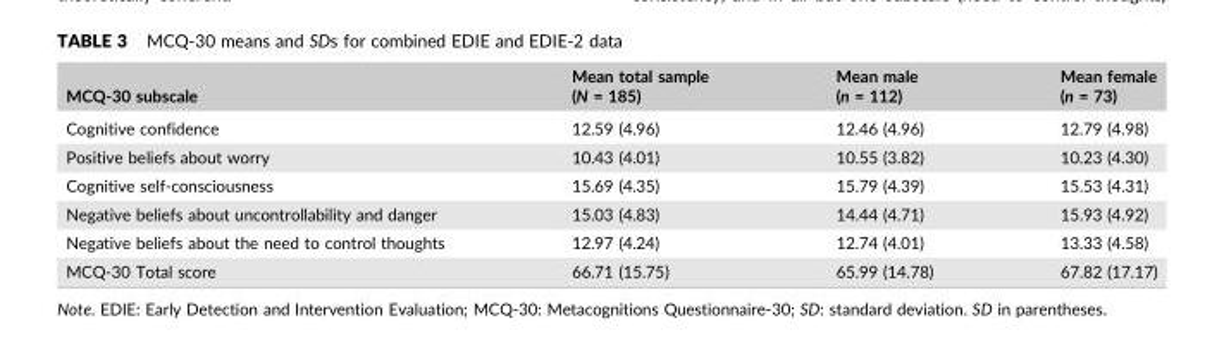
<table><thead><tr><td rowspan="2">MCQ‐30 subscale</td><td rowspan="2">Mean total sample (N = 185)</td><td rowspan="2">Mean male (n = 112)</td><td rowspan="2">Mean female (n = 73)</td></tr><tr></tr></thead><tbody><tr><td>Cognitive confidence</td><td>12.59 (4.96)</td><td>12.46 (4.96)</td><td>12.79 (4.98)</td></tr><tr><td>Positive beliefs about worry</td><td>10.43 (4.01)</td><td>10.55 (3.82)</td><td>10.23 (4.30)</td></tr><tr><td>Cognitive self‐consciousness</td><td>15.69 (4.35)</td><td>15.79 (4.39)</td><td>15.53 (4.31)</td></tr><tr><td>Negative beliefs about uncontrollability and danger</td><td>15.03 (4.83)</td><td>14.44 (4.71)</td><td>15.93 (4.92)</td></tr><tr><td>Negative beliefs about the need to control thoughts</td><td>12.97 (4.24)</td><td>12.74 (4.01)</td><td>13.33 (4.58)</td></tr><tr><td>MCQ‐30 Total score</td><td>66.71 (15.75)</td><td>65.99 (14.78)</td><td>67.82 (17.17)</td></tr></tbody></table>